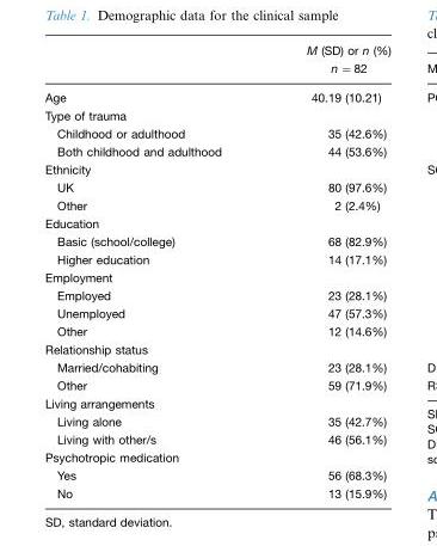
<table><thead><tr><td></td><td>M (SD) or n (%) n =82</td></tr></thead><tbody><tr><td>Age</td><td>40.19 (10.21)</td></tr><tr><td colspan="2">Type of trauma</td></tr><tr><td>Childhood or adulthood</td><td>35 (42.6%)</td></tr><tr><td>Both childhood and adulthood</td><td>44 (53.6%)</td></tr><tr><td colspan="2">Ethnicity</td></tr><tr><td>UK</td><td>80 (97.6%)</td></tr><tr><td>Other</td><td>2 (2.4%)</td></tr><tr><td colspan="2">Education</td></tr><tr><td>Basic (school/college)</td><td>68 (82.9%)</td></tr><tr><td>Higher education</td><td>14 (17.1%)</td></tr><tr><td colspan="2">Employment</td></tr><tr><td>Employed</td><td>23 (28.1%)</td></tr><tr><td>Unemployed</td><td>47 (57.3%)</td></tr><tr><td>Other</td><td>12 (14.6%)</td></tr><tr><td colspan="2">Relationship status</td></tr><tr><td>Married/cohabiting</td><td>23 (28.1%)</td></tr><tr><td>Other</td><td>59 (71.9%)</td></tr><tr><td colspan="2">Living arrangements</td></tr><tr><td>Living alone</td><td>35 (42.7%)</td></tr><tr><td>Living with other/s</td><td>46 (56.1%)</td></tr><tr><td colspan="2">Psychotropic medication</td></tr><tr><td>Yes</td><td>56 (68.3%)</td></tr><tr><td>No</td><td>13 (15.9%)</td></tr></tbody></table>